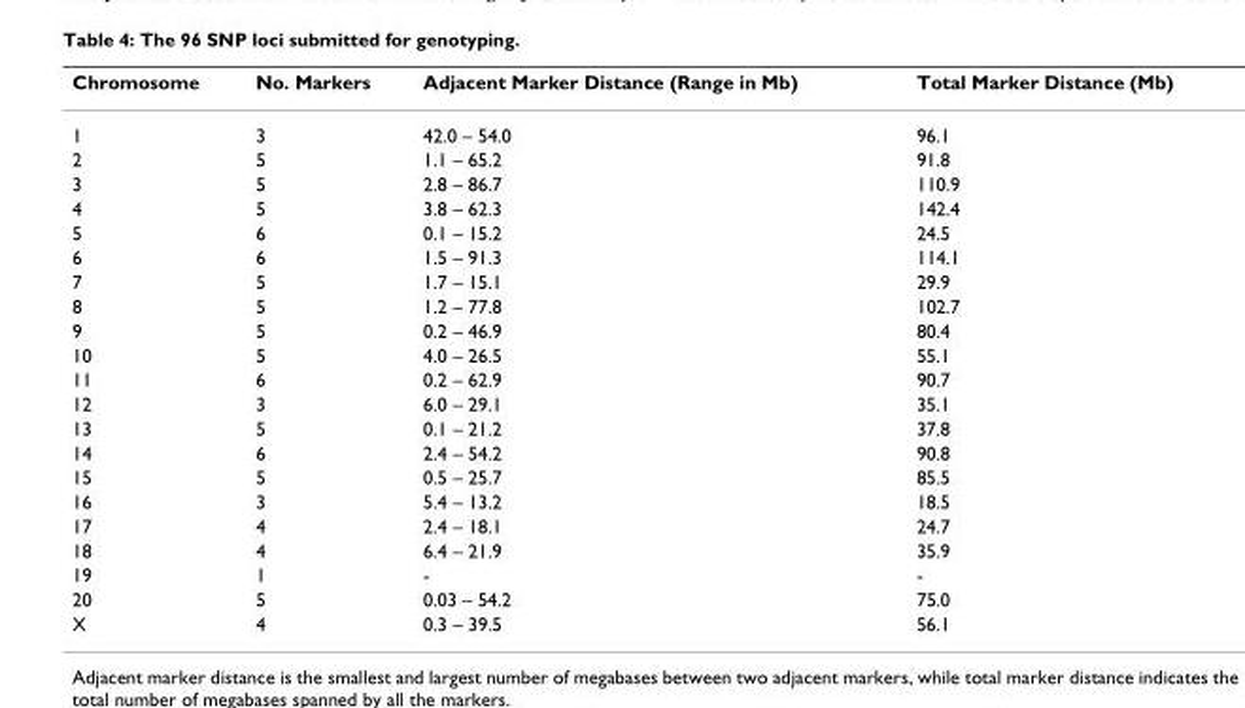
<table><thead><tr><td>Chromosome</td><td>No. Markers</td><td>Adjacent Marker Distance (Range in Mb)</td><td>Total Marker Distance (Mb)</td></tr></thead><tbody><tr><td>1</td><td>3</td><td>42.0 – 54.0</td><td>96.1</td></tr><tr><td>2</td><td>5</td><td>1.1 – 65.2</td><td>91.8</td></tr><tr><td>3</td><td>5</td><td>2.8 – 86.7</td><td>110.9</td></tr><tr><td>4</td><td>5</td><td>3.8 – 62.3</td><td>142.4</td></tr><tr><td>5</td><td>6</td><td>0.1 – 15.2</td><td>24.5</td></tr><tr><td>6</td><td>6</td><td>1.5 – 91.3</td><td>114.1</td></tr><tr><td>7</td><td>5</td><td>1.7 – 15.1</td><td>29.9</td></tr><tr><td>8</td><td>5</td><td>1.2 – 77.8</td><td>102.7</td></tr><tr><td>9</td><td>5</td><td>0.2 – 46.9</td><td>80.4</td></tr><tr><td>10</td><td>5</td><td>4.0 – 26.5</td><td>55.1</td></tr><tr><td>11</td><td>6</td><td>0.2 – 62.9</td><td>90.7</td></tr><tr><td>12</td><td>3</td><td>6.0 – 29.1</td><td>35.1</td></tr><tr><td>13</td><td>5</td><td>0.1 – 21.2</td><td>37.8</td></tr><tr><td>14</td><td>6</td><td>2.4 – 54.2</td><td>90.8</td></tr><tr><td>15</td><td>5</td><td>0.5 – 25.7</td><td>85.5</td></tr><tr><td>16</td><td>3</td><td>5.4 – 13.2</td><td>18.5</td></tr><tr><td>17</td><td>4</td><td>2.4 – 18.1</td><td>24.7</td></tr><tr><td>18</td><td>4</td><td>6.4 – 21.9</td><td>35.9</td></tr><tr><td>19</td><td>1</td><td>-</td><td>-</td></tr><tr><td>20</td><td>5</td><td>0.03 – 54.2</td><td>75.0</td></tr><tr><td>X</td><td>4</td><td>0.3 – 39.5</td><td>56.1</td></tr></tbody></table>